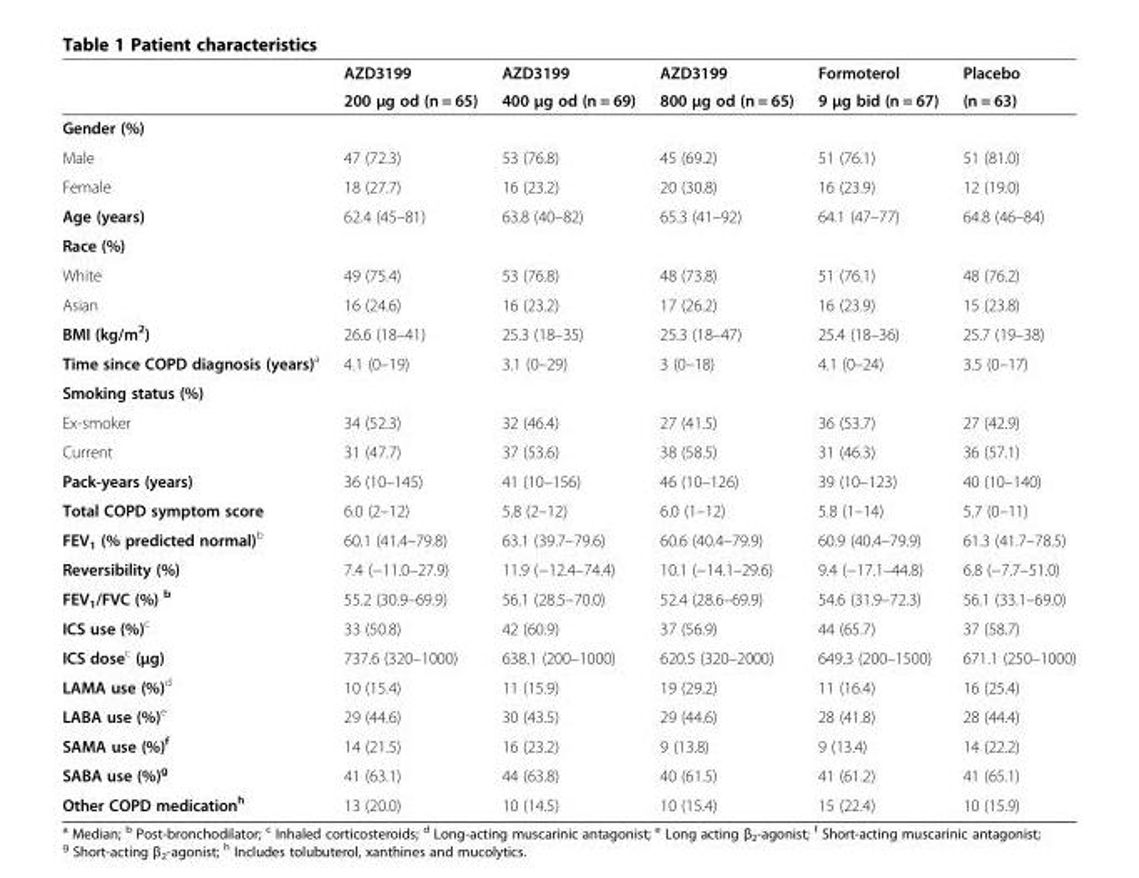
<table><thead><tr><td rowspan="2"></td><td rowspan="2">AZD3199 200 μg od (n = 65)</td><td rowspan="2">AZD3199 400 μg od (n = 69)</td><td rowspan="2">AZD3199 800 μg od (n = 65)</td><td rowspan="2">Formoterol 9 μg bid (n = 67)</td><td rowspan="2">Placebo (n = 63)</td></tr><tr></tr></thead><tbody><tr><td colspan="6">Gender (%)</td></tr><tr><td>Male</td><td>47 (72.3)</td><td>53 (76.8)</td><td>45 (69.2)</td><td>51 (76.1)</td><td>51 (81.0)</td></tr><tr><td>Female</td><td>18 (27.7)</td><td>16 (23.2)</td><td>20 (30.8)</td><td>16 (23.9)</td><td>12 (19.0)</td></tr><tr><td>Age (years)</td><td>62.4 (45–81)</td><td>63.8 (40–82)</td><td>65.3 (41–92)</td><td>64.1 (47–77)</td><td>64.8 (46–84)</td></tr><tr><td colspan="6">Race (%)</td></tr><tr><td>White</td><td>49 (75.4)</td><td>53 (76.8)</td><td>48 (73.8)</td><td>51 (76.1)</td><td>48 (76.2)</td></tr><tr><td>Asian</td><td>16 (24.6)</td><td>16 (23.2)</td><td>17 (26.2)</td><td>16 (23.9)</td><td>15 (23.8)</td></tr><tr><td>BMI (kg/m<sup>2</sup>)</td><td>26.6 (18–41)</td><td>25.3 (18–35)</td><td>25.3 (18–47)</td><td>25.4 (18–36)</td><td>25.7 (19–38)</td></tr><tr><td>Time since COPD diagnosis (years)<sup>a</sup></td><td>4.1 (0–19)</td><td>3.1 (0–29)</td><td>3 (0–18)</td><td>4.1 (0–24)</td><td>3.5 (0–17)</td></tr><tr><td colspan="6">Smoking status (%)</td></tr><tr><td>Ex-smoker</td><td>34 (52.3)</td><td>32 (46.4)</td><td>27 (41.5)</td><td>36 (53.7)</td><td>27 (42.9)</td></tr><tr><td>Current</td><td>31 (47.7)</td><td>37 (53.6)</td><td>38 (58.5)</td><td>31 (46.3)</td><td>36 (57.1)</td></tr><tr><td>Pack-years (years)</td><td>36 (10–145)</td><td>41 (10–156)</td><td>46 (10–126)</td><td>39 (10–123)</td><td>40 (10–140)</td></tr><tr><td>Total COPD symptom score</td><td>6.0 (2–12)</td><td>5.8 (2–12)</td><td>6.0 (1–12)</td><td>5.8 (1–14)</td><td>5.7 (0–11)</td></tr><tr><td>FEV<sub>1</sub> (% predicted normal)<sup>b</sup></td><td>60.1 (41.4–79.8)</td><td>63.1 (39.7–79.6)</td><td>60.6 (40.4–79.9)</td><td>60.9 (40.4–79.9)</td><td>61.3 (41.7–78.5)</td></tr><tr><td>Reversibility (%)</td><td>7.4 (−11.0–27.9)</td><td>11.9 (−12.4–74.4)</td><td>10.1 (−14.1–29.6)</td><td>9.4 (−17.1–44.8)</td><td>6.8 (−7.7–51.0)</td></tr><tr><td>FEV<sub>1</sub>/FVC (%) <sup>b</sup></td><td>55.2 (30.9–69.9)</td><td>56.1 (28.5–70.0)</td><td>52.4 (28.6–69.9)</td><td>54.6 (31.9–72.3)</td><td>56.1 (33.1–69.0)</td></tr><tr><td>ICS use (%)<sup>c</sup></td><td>33 (50.8)</td><td>42 (60.9)</td><td>37 (56.9)</td><td>44 (65.7)</td><td>37 (58.7)</td></tr><tr><td>ICS dose<sup>c</sup> (μg)</td><td>737.6 (320–1000)</td><td>638.1 (200–1000)</td><td>620.5 (320–2000)</td><td>649.3 (200–1500)</td><td>671.1 (250–1000)</td></tr><tr><td>LAMA use (%)<sup>d</sup></td><td>10 (15.4)</td><td>11 (15.9)</td><td>19 (29.2)</td><td>11 (16.4)</td><td>16 (25.4)</td></tr><tr><td>LABA use (%)<sup>e</sup></td><td>29 (44.6)</td><td>30 (43.5)</td><td>29 (44.6)</td><td>28 (41.8)</td><td>28 (44.4)</td></tr><tr><td>SAMA use (%)<sup>f</sup></td><td>14 (21.5)</td><td>16 (23.2)</td><td>9 (13.8)</td><td>9 (13.4)</td><td>14 (22.2)</td></tr><tr><td>SABA use (%)<sup>g</sup></td><td>41 (63.1)</td><td>44 (63.8)</td><td>40 (61.5)</td><td>41 (61.2)</td><td>41 (65.1)</td></tr><tr><td>Other COPD medication<sup>h</sup></td><td>13 (20.0)</td><td>10 (14.5)</td><td>10 (15.4)</td><td>15 (22.4)</td><td>10 (15.9)</td></tr></tbody></table>